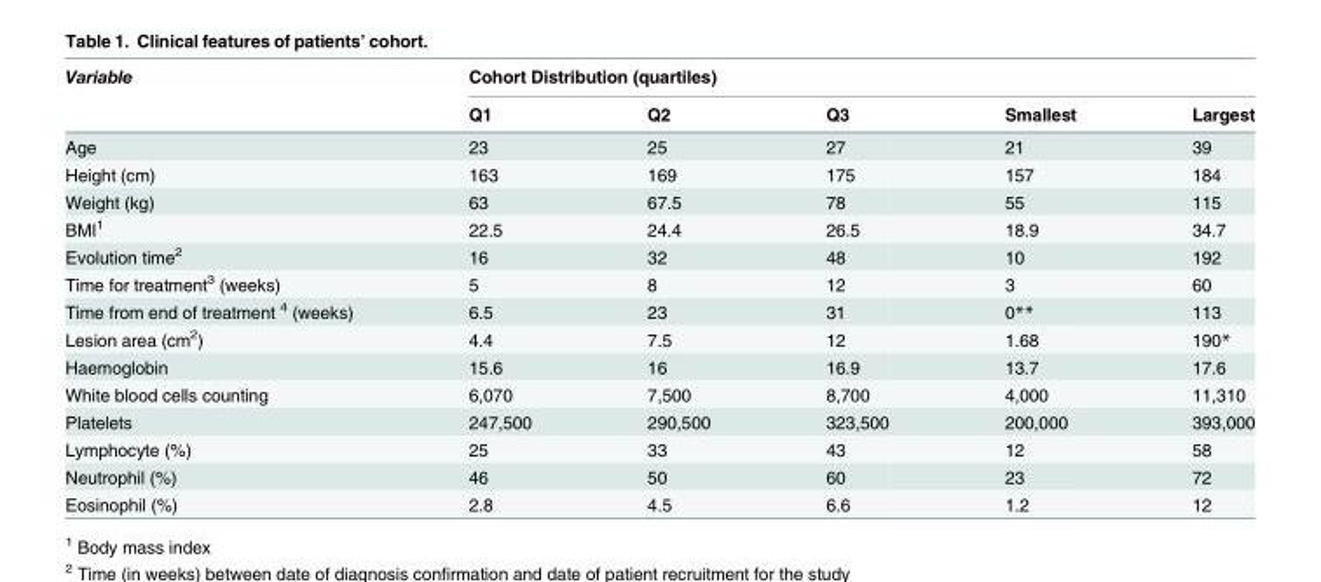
<table><thead><tr><td rowspan="2">Variable</td><td colspan="5">Cohort Distribution (quartiles)</td></tr><tr><td>Q1</td><td>Q2</td><td>Q3</td><td>Smallest</td><td>Largest</td></tr></thead><tbody><tr><td>Age</td><td>23</td><td>25</td><td>27</td><td>21</td><td>39</td></tr><tr><td>Height (cm)</td><td>163</td><td>169</td><td>175</td><td>157</td><td>184</td></tr><tr><td>Weight (kg)</td><td>63</td><td>67.5</td><td>78</td><td>55</td><td>115</td></tr><tr><td>BMI<sup>1</sup></td><td>22.5</td><td>24.4</td><td>26.5</td><td>18.9</td><td>34.7</td></tr><tr><td>Evolution time<sup>2</sup></td><td>16</td><td>32</td><td>48</td><td>10</td><td>192</td></tr><tr><td>Time for treatment<sup>3</sup> (weeks)</td><td>5</td><td>8</td><td>12</td><td>3</td><td>60</td></tr><tr><td>Time from end of treatment <sup>4</sup> (weeks)</td><td>6.5</td><td>23</td><td>31</td><td>0**</td><td>113</td></tr><tr><td>Lesion area (cm<sup>2</sup>)</td><td>4.4</td><td>7.5</td><td>12</td><td>1.68</td><td>190*</td></tr><tr><td>Haemoglobin</td><td>15.6</td><td>16</td><td>16.9</td><td>13.7</td><td>17.6</td></tr><tr><td>White blood cells counting</td><td>6,070</td><td>7,500</td><td>8,700</td><td>4,000</td><td>11,310</td></tr><tr><td>Platelets</td><td>247,500</td><td>290,500</td><td>323,500</td><td>200,000</td><td>393,000</td></tr><tr><td>Lymphocyte (%)</td><td>25</td><td>33</td><td>43</td><td>12</td><td>58</td></tr><tr><td>Neutrophil (%)</td><td>46</td><td>50</td><td>60</td><td>23</td><td>72</td></tr><tr><td>Eosinophil (%)</td><td>2.8</td><td>4.5</td><td>6.6</td><td>1.2</td><td>12</td></tr></tbody></table>